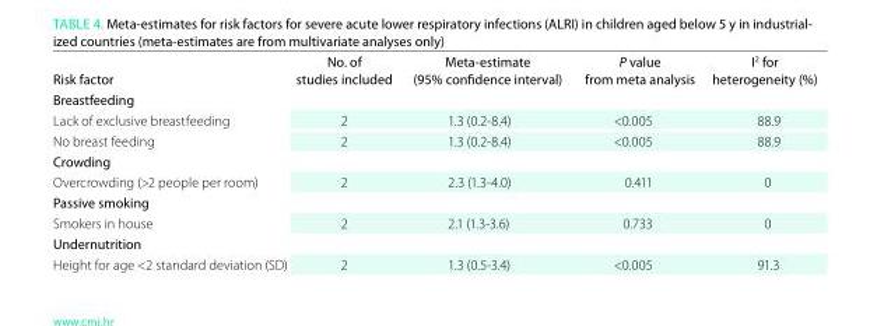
<table><thead><tr><td>Risk factor</td><td>No. of studies included</td><td>Meta-estimate (95% confidence interval)</td><td>P value from meta analysis</td><td>I<sup>2</sup> for heterogeneity (%)</td></tr></thead><tbody><tr><td colspan="5">breastfeeding</td></tr><tr><td>Lack of exclusive breastfeeding</td><td>2</td><td>1.3 (0.2-8.4)</td><td>&lt;0.005</td><td>88.9</td></tr><tr><td>No breast feeding</td><td>2</td><td>1.3 (0.2-8.4)</td><td>&lt;0.005</td><td>88.9</td></tr><tr><td colspan="5">Crowding</td></tr><tr><td>Overcrowding (&gt;2 people per room)</td><td>2</td><td>2.3 (1.3-4.0)</td><td>0.411</td><td>0</td></tr><tr><td colspan="5">Passive smoking</td></tr><tr><td>Smokers in house</td><td>2</td><td>2.1 (1.3-3.6)</td><td>0.733</td><td>0</td></tr><tr><td colspan="5">undernutrition</td></tr><tr><td>Height for age &lt;2 standard deviation (SD)</td><td>2</td><td>1.3 (0.5-3.4)</td><td>&lt;0.005</td><td>91.3</td></tr></tbody></table>